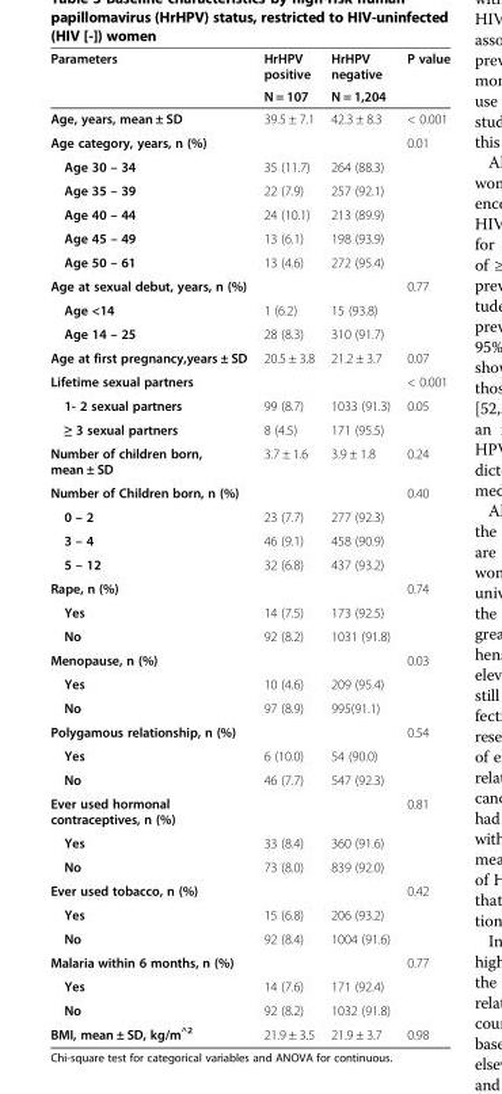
<table><thead><tr><td rowspan="2">Parameters</td><td rowspan="2">HrHPV positive N = 107</td><td rowspan="2">HrHPV negative N = 1,204</td><td rowspan="2">P value</td></tr><tr></tr></thead><tbody><tr><td>Age, years, mean ± SD</td><td>39.5 ± 7.1</td><td>42.3 ± 8.3</td><td>&lt; 0.001</td></tr><tr><td>Age category, years, n (%)</td><td></td><td></td><td>0.01</td></tr><tr><td>Age 30 – 34</td><td>35 (11.7)</td><td>264 (88.3)</td><td></td></tr><tr><td>Age 35 – 39</td><td>22 (7.9)</td><td>257 (92.1)</td><td></td></tr><tr><td>Age 40 – 44</td><td>24 (10.1)</td><td>213 (89.9)</td><td></td></tr><tr><td>Age 45 – 49</td><td>13 (6.1)</td><td>198 (93.9)</td><td></td></tr><tr><td>Age 50 – 61</td><td>13 (4.6)</td><td>272 (95.4)</td><td></td></tr><tr><td>Age at sexual debut, years, n (%)</td><td></td><td></td><td>0.77</td></tr><tr><td>Age &lt;14</td><td>1 (6.2)</td><td>15 (93.8)</td><td></td></tr><tr><td>Age 14 – 25</td><td>28 (8.3)</td><td>310 (91.7)</td><td></td></tr><tr><td>Age at first pregnancy,years ± SD</td><td>20.5 ± 3.8</td><td>21.2 ± 3.7</td><td>0.07</td></tr><tr><td>Lifetime sexual partners</td><td></td><td></td><td>&lt; 0.001</td></tr><tr><td>1- 2 sexual partners</td><td>99 (8.7)</td><td>1033 (91.3)</td><td>0.05</td></tr><tr><td>≥ 3 sexual partners</td><td>8 (4.5)</td><td>171 (95.5)</td><td></td></tr><tr><td>Number of children born, mean ± SD</td><td>3.7 ± 1.6</td><td>3.9 ± 1.8</td><td>0.24</td></tr><tr><td>Number of Children born, n (%)</td><td></td><td></td><td>0.40</td></tr><tr><td>0 – 2</td><td>23 (7.7)</td><td>277 (92.3)</td><td></td></tr><tr><td>3 – 4</td><td>46 (9.1)</td><td>458 (90.9)</td><td></td></tr><tr><td>5 – 12</td><td>32 (6.8)</td><td>437 (93.2)</td><td></td></tr><tr><td>Rape, n (%)</td><td></td><td></td><td>0.74</td></tr><tr><td>Yes</td><td>14 (7.5)</td><td>173 (92.5)</td><td></td></tr><tr><td>No</td><td>92 (8.2)</td><td>1031 (91.8)</td><td></td></tr><tr><td>Menopause, n (%)</td><td></td><td></td><td>0.03</td></tr><tr><td>Yes</td><td>10 (4.6)</td><td>209 (95.4)</td><td></td></tr><tr><td>No</td><td>97 (8.9)</td><td>995(91.1)</td><td></td></tr><tr><td>Polygamous relationship, n (%)</td><td></td><td></td><td>0.54</td></tr><tr><td>Yes</td><td>6 (10.0)</td><td>54 (90.0)</td><td></td></tr><tr><td>No</td><td>46 (7.7)</td><td>547 (92.3)</td><td></td></tr><tr><td>Ever used hormonal contraceptives, n (%)</td><td></td><td></td><td>0.81</td></tr><tr><td>Yes</td><td>33 (8.4)</td><td>360 (91.6)</td><td></td></tr><tr><td>No</td><td>73 (8.0)</td><td>839 (92.0)</td><td></td></tr><tr><td>Ever used tobacco, n (%)</td><td></td><td></td><td>0.42</td></tr><tr><td>Yes</td><td>15 (6.8)</td><td>206 (93.2)</td><td></td></tr><tr><td>No</td><td>92 (8.4)</td><td>1004 (91.6)</td><td></td></tr><tr><td>Malaria within 6 months, n (%)</td><td></td><td></td><td>0.77</td></tr><tr><td>Yes</td><td>14 (7.6)</td><td>171 (92.4)</td><td></td></tr><tr><td>No</td><td>92 (8.2)</td><td>1032 (91.8)</td><td></td></tr><tr><td>BMI, mean ± SD, kg/m<sup>^2</sup></td><td>21.9 ± 3.5</td><td>21.9 ± 3.7</td><td>0.98</td></tr></tbody></table>